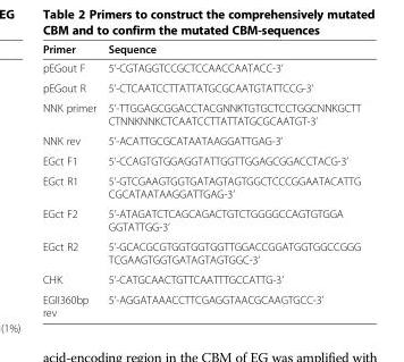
<table><thead><tr><td>Primer</td><td>Sequence</td></tr></thead><tbody><tr><td>pEGout F</td><td>5’-CGTAGGTCCGCTCCAACCAATACC-3’</td></tr><tr><td>pEGout R</td><td>5’-CTCAATCCTTATTATGCGCAATGTATTCCG-3’</td></tr><tr><td>NNK primer</td><td>5’-TTGGAGCGGACCTACGNNKTGTGCTCCTGGCNNKGCTT CTNNKNNKCTCAATCCTTATTATGCGCAATGT-3’</td></tr><tr><td>NNK rev</td><td>5’-ACATTGCGCATAATAAGGATTGAG-3’</td></tr><tr><td>EGct F1</td><td>5’-CCAGTGTGGAGGTATTGGTTGGAGCGGACCTACG-3’</td></tr><tr><td>EGct R1</td><td>5’-GTCGAAGTGGTGATAGTAGTGGCTCCCGGAATACATTG CGCATAATAAGGATTGAG-3’</td></tr><tr><td>EGct F2</td><td>5’-ATAGATCTCAGCAGACTGTCTGGGGCCAGTGTGGA GGTATTGG-3’</td></tr><tr><td>EGct R2</td><td>5’-GCACGCGTGGTGGTGGTTGGACCGGATGGTGGCCGGG TCGAAGTGGTGATAGTAGTGGC-3’</td></tr><tr><td>CHK</td><td>5’-CATGCAACTGTTCAATTTGCCATTG-3’</td></tr><tr><td>EGII360bp rev</td><td>5’-AGGATAAACCTTCGAGGTAACGCAAGTGCC-3’</td></tr></tbody></table>